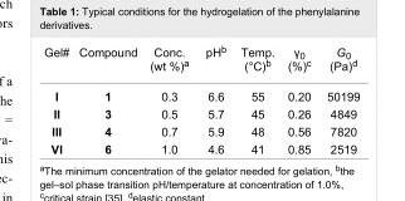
<table><tbody><tr><td>Gel#</td><td>Compound</td><td>Conc. (wt %)<sup>a</sup></td><td>pH<sup>b</sup></td><td>Temp. (°C)<sup>b</sup></td><td>γ<sub>0</sub> (%)<sup>c</sup></td><td>G<sub>0</sub> (Pa)<sup>d</sup></td></tr><tr><td>I</td><td>1</td><td>0.3</td><td>6.6</td><td>55</td><td>0.20</td><td>50199</td></tr><tr><td>II</td><td>3</td><td>0.5</td><td>5.7</td><td>45</td><td>0.26</td><td>4849</td></tr><tr><td>III</td><td>4</td><td>0.7</td><td>5.9</td><td>48</td><td>0.56</td><td>7820</td></tr><tr><td>VI</td><td>6</td><td>1.0</td><td>4.6</td><td>41</td><td>0.85</td><td>2519</td></tr></tbody></table>